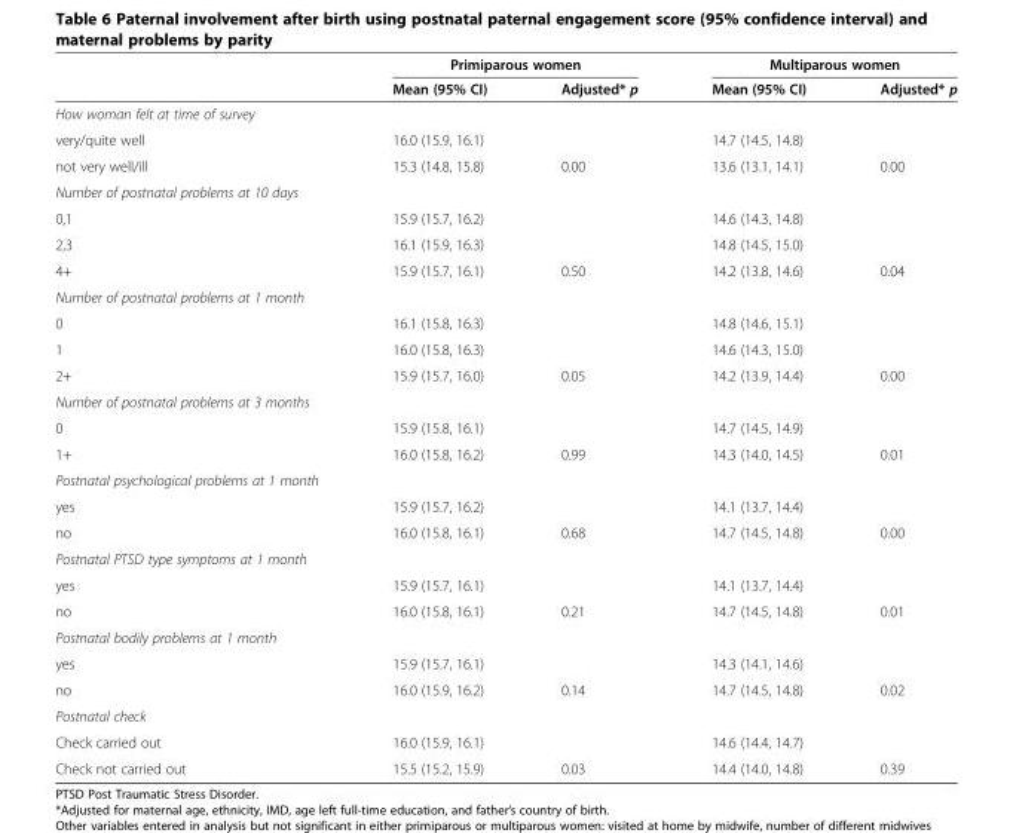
<table><thead><tr><td rowspan="2"></td><td colspan="2">Primiparous women</td><td colspan="2">Multiparous women</td></tr><tr><td>Mean (95% CI)</td><td>Adjusted* p</td><td>Mean (95% CI)</td><td>Adjusted* p</td></tr></thead><tbody><tr><td colspan="5">How woman felt at time of survey</td></tr><tr><td>very/quite well</td><td>16.0 (15.9, 16.1)</td><td></td><td>14.7 (14.5, 14.8)</td><td></td></tr><tr><td>not very well/ill</td><td>15.3 (14.8, 15.8)</td><td>0.00</td><td>13.6 (13.1, 14.1)</td><td>0.00</td></tr><tr><td colspan="5">Number of postnatal problems at 10 days</td></tr><tr><td>0,1</td><td>15.9 (15.7, 16.2)</td><td></td><td>14.6 (14.3, 14.8)</td><td></td></tr><tr><td>2,3</td><td>16.1 (15.9, 16.3)</td><td></td><td>14.8 (14.5, 15.0)</td><td></td></tr><tr><td>4+</td><td>15.9 (15.7, 16.1)</td><td>0.50</td><td>14.2 (13.8, 14.6)</td><td>0.04</td></tr><tr><td colspan="5">Number of postnatal problems at 1 month</td></tr><tr><td>0</td><td>16.1 (15.8, 16.3)</td><td></td><td>14.8 (14.6, 15.1)</td><td></td></tr><tr><td>1</td><td>16.0 (15.8, 16.3)</td><td></td><td>14.6 (14.3, 15.0)</td><td></td></tr><tr><td>2+</td><td>15.9 (15.7, 16.0)</td><td>0.05</td><td>14.2 (13.9, 14.4)</td><td>0.00</td></tr><tr><td colspan="5">Number of postnatal problems at 3 months</td></tr><tr><td>0</td><td>15.9 (15.8, 16.1)</td><td></td><td>14.7 (14.5, 14.9)</td><td></td></tr><tr><td>1+</td><td>16.0 (15.8, 16.2)</td><td>0.99</td><td>14.3 (14.0, 14.5)</td><td>0.01</td></tr><tr><td colspan="5">Postnatal psychological problems at 1 month</td></tr><tr><td>yes</td><td>15.9 (15.7, 16.2)</td><td></td><td>14.1 (13.7, 14.4)</td><td></td></tr><tr><td>no</td><td>16.0 (15.8, 16.1)</td><td>0.68</td><td>14.7 (14.5, 14.8)</td><td>0.00</td></tr><tr><td colspan="5">Postnatal PTSD type symptoms at 1 month</td></tr><tr><td>yes</td><td>15.9 (15.7, 16.1)</td><td></td><td>14.1 (13.7, 14.4)</td><td></td></tr><tr><td>no</td><td>16.0 (15.8, 16.1)</td><td>0.21</td><td>14.7 (14.5, 14.8)</td><td>0.01</td></tr><tr><td colspan="5">Postnatal bodily problems at 1 month</td></tr><tr><td>yes</td><td>15.9 (15.7, 16.1)</td><td></td><td>14.3 (14.1, 14.6)</td><td></td></tr><tr><td>no</td><td>16.0 (15.9, 16.2)</td><td>0.14</td><td>14.7 (14.5, 14.8)</td><td>0.02</td></tr><tr><td colspan="5">Postnatal check</td></tr><tr><td>Check carried out</td><td>16.0 (15.9, 16.1)</td><td></td><td>14.6 (14.4, 14.7)</td><td></td></tr><tr><td>Check not carried out</td><td>15.5 (15.2, 15.9)</td><td>0.03</td><td>14.4 (14.0, 14.8)</td><td>0.39</td></tr></tbody></table>